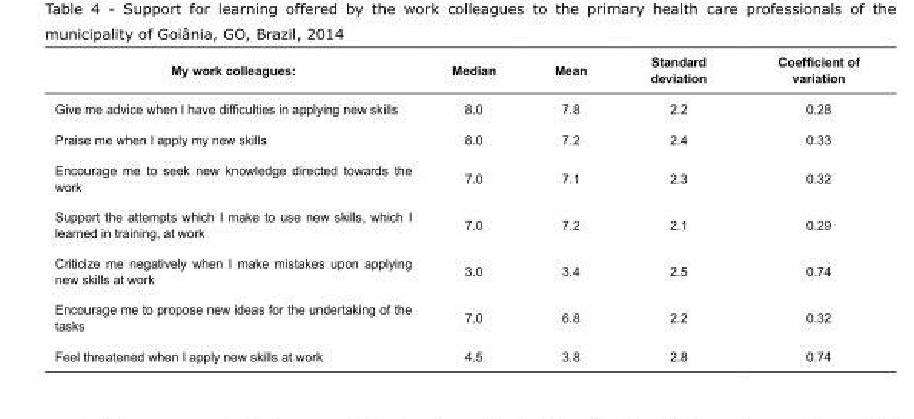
<table><tbody><tr><td>My work colleagues:</td><td>Median</td><td>Mean</td><td>Standard deviation</td><td>Coefficient of variation</td></tr><tr><td>Give me advice when I have difficulties in applying new skills</td><td>8.0</td><td>7.8</td><td>2.2</td><td>0.28</td></tr><tr><td>Praise me when I apply my new skills</td><td>8.0</td><td>7.2</td><td>2.4</td><td>0.33</td></tr><tr><td>Encourage me to seek new knowledge directed towards the work</td><td>7.0</td><td>7.1</td><td>2.3</td><td>0.32</td></tr><tr><td>Support the attempts which I make to use new skills, which I learned in training, at work</td><td>7.0</td><td>7.2</td><td>2.1</td><td>0.29</td></tr><tr><td>Criticize me negatively when I make mistakes upon applying new skills at work</td><td>3.0</td><td>3.4</td><td>2.5</td><td>0.74</td></tr><tr><td>Encourage me to propose new ideas for the undertaking of the tasks</td><td>7.0</td><td>6.8</td><td>2.2</td><td>0.32</td></tr><tr><td>Feel threatened when I apply new skills at work</td><td>4.5</td><td>3.8</td><td>2.8</td><td>0.74</td></tr></tbody></table>